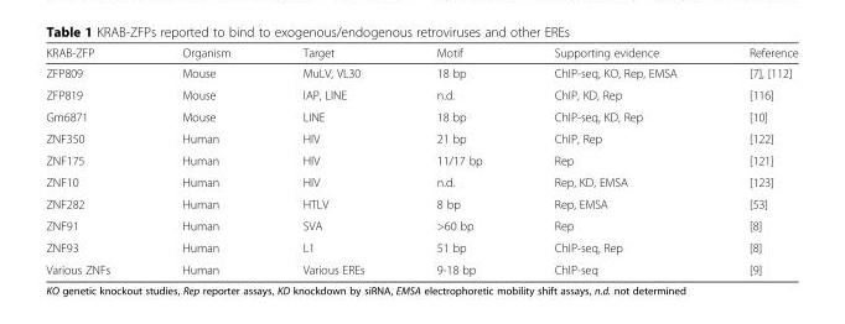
<table><thead><tr><td>KRAB-ZFP</td><td>Organism</td><td>Target</td><td>Motif</td><td>Supporting evidence</td><td>Reference</td></tr></thead><tbody><tr><td>ZFP809</td><td>Mouse</td><td>MuLV, VL30</td><td>18 bp</td><td>ChIP-seq, KO, Rep, EMSA</td><td>[7], [112]</td></tr><tr><td>ZFP819</td><td>Mouse</td><td>IAP, LINE</td><td>n.d.</td><td>ChIP, KD, Rep</td><td>[116]</td></tr><tr><td>Gm6871</td><td>Mouse</td><td>LINE</td><td>18 bp</td><td>ChIP-seq, KD, Rep</td><td>[10]</td></tr><tr><td>ZNF350</td><td>Human</td><td>HIV</td><td>21 bp</td><td>ChIP, Rep</td><td>[122]</td></tr><tr><td>ZNF175</td><td>Human</td><td>HIV</td><td>11/17 bp</td><td>Rep</td><td>[121]</td></tr><tr><td>ZNF10</td><td>Human</td><td>HIV</td><td>n.d.</td><td>Rep, KD, EMSA</td><td>[123]</td></tr><tr><td>ZNF282</td><td>Human</td><td>HTLV</td><td>8 bp</td><td>Rep, EMSA</td><td>[53]</td></tr><tr><td>ZNF91</td><td>Human</td><td>SVA</td><td>&gt;60 bp</td><td>Rep</td><td>[8]</td></tr><tr><td>ZNF93</td><td>Human</td><td>L1</td><td>51 bp</td><td>ChIP-seq, Rep</td><td>[8]</td></tr><tr><td>Various ZNFs</td><td>Human</td><td>Various EREs</td><td>9-18 bp</td><td>ChIP-seq</td><td>[9]</td></tr></tbody></table>